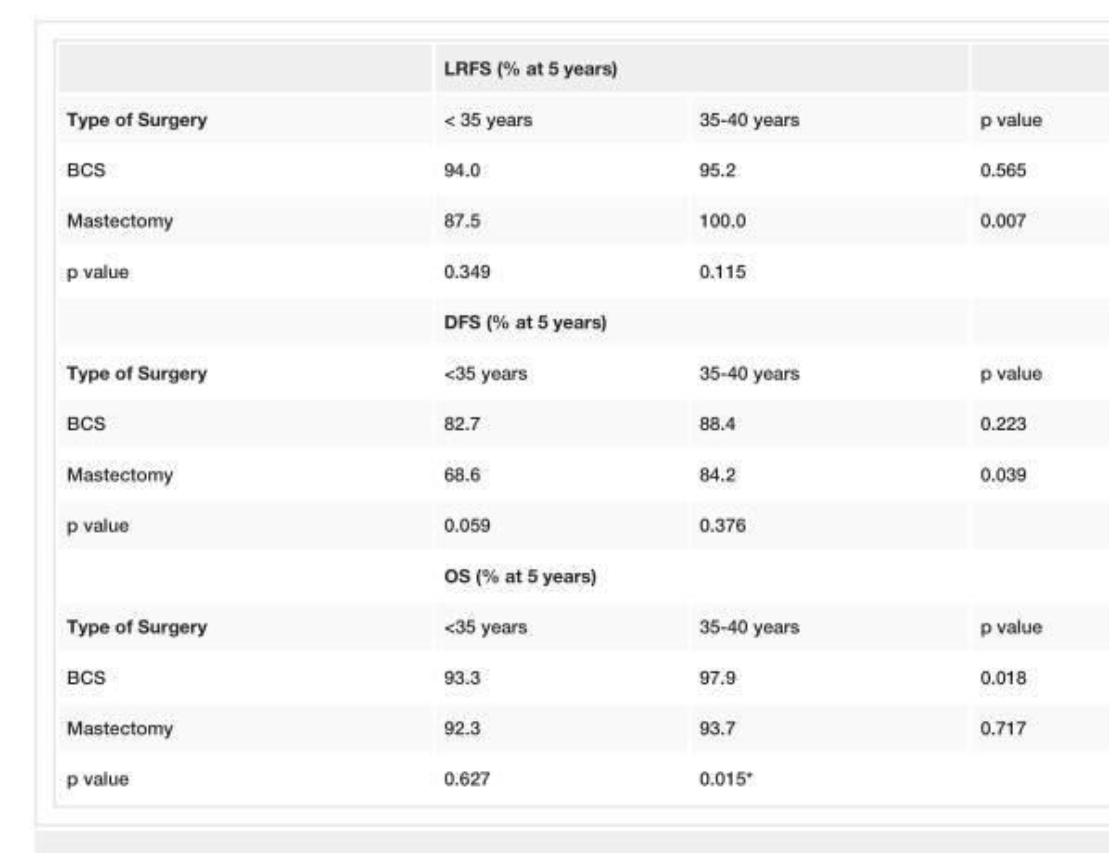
<table><thead><tr><td rowspan="2">Type of Surgery</td><td colspan="2">LRFS (% at 5 years)</td><td rowspan="2">p value</td></tr><tr><td>&lt; 35 years</td><td>35-40 years</td></tr></thead><tbody><tr><td>BCS</td><td>94.0</td><td>95.2</td><td>0.565</td></tr><tr><td>Mastectomy</td><td>87.5</td><td>100.0</td><td>0.007</td></tr><tr><td rowspan="2">p value</td><td>0.349</td><td>0.115</td><td></td></tr><tr><td colspan="2">DFS (% at 5 years)</td><td></td></tr><tr><td>Type of Surgery</td><td>&lt;35 years</td><td>35-40 years</td><td>p value</td></tr><tr><td>BCS</td><td>82.7</td><td>88.4</td><td>0.223</td></tr><tr><td>Mastectomy</td><td>68.6</td><td>84.2</td><td>0.039</td></tr><tr><td rowspan="2">p value</td><td>0.059</td><td>0.376</td><td></td></tr><tr><td colspan="2">OS (% at 5 years)</td><td></td></tr><tr><td>Type of Surgery</td><td>&lt;35 years</td><td>35-40 years</td><td>p value</td></tr><tr><td>BCS</td><td>93.3</td><td>97.9</td><td>0.018</td></tr><tr><td>Mastectomy</td><td>92.3</td><td>93.7</td><td>0.717</td></tr><tr><td>p value</td><td>0.627</td><td>0.015*</td><td></td></tr></tbody></table>